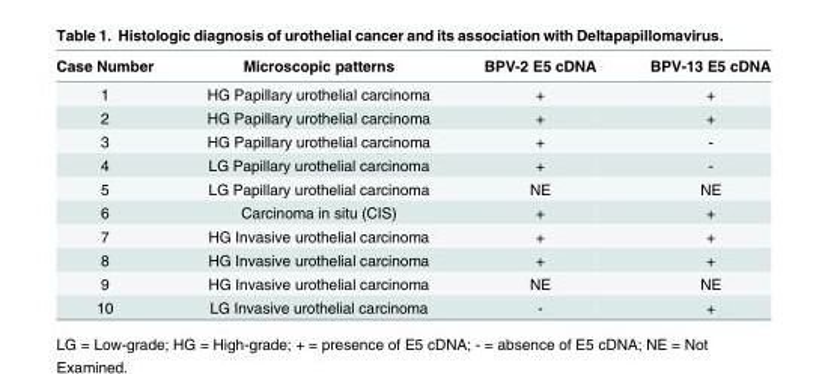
<table><thead><tr><td>Case Number</td><td>Microscopic patterns</td><td>BPV-2 E5 cDNA</td><td>BPV-13 E5 cDNA</td></tr></thead><tbody><tr><td>1</td><td>HG Papillary urothelial carcinoma</td><td>+</td><td>+</td></tr><tr><td>2</td><td>HG Papillary urothelial carcinoma</td><td>+</td><td>+</td></tr><tr><td>3</td><td>HG Papillary urothelial carcinoma</td><td>+</td><td>-</td></tr><tr><td>4</td><td>LG Papillary urothelial carcinoma</td><td>+</td><td>-</td></tr><tr><td>5</td><td>LG Papillary urothelial carcinoma</td><td>NE</td><td>NE</td></tr><tr><td>6</td><td>Carcinoma in situ (CIS)</td><td>+</td><td>+</td></tr><tr><td>7</td><td>HG Invasive urothelial carcinoma</td><td>+</td><td>+</td></tr><tr><td>8</td><td>HG Invasive urothelial carcinoma</td><td>+</td><td>+</td></tr><tr><td>9</td><td>HG Invasive urothelial carcinoma</td><td>NE</td><td>NE</td></tr><tr><td>10</td><td>LG Invasive urothelial carcinoma</td><td>-</td><td>+</td></tr></tbody></table>